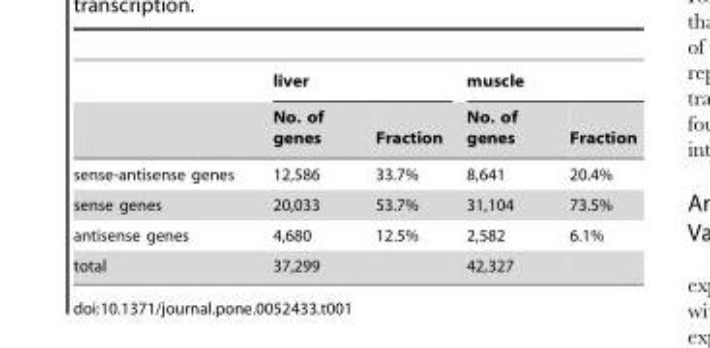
<table><thead><tr><td rowspan="2"></td><td colspan="2">liver</td><td colspan="2">muscle</td></tr><tr><td>No. of genes</td><td>Fraction</td><td>No. of genes</td><td>Fraction</td></tr></thead><tbody><tr><td>sense-antisense genes</td><td>12,586</td><td>33.7%</td><td>8,641</td><td>20.4%</td></tr><tr><td>sense genes</td><td>20,033</td><td>53.7%</td><td>31,104</td><td>73.5%</td></tr><tr><td>antisense genes</td><td>4,680</td><td>12.5%</td><td>2,582</td><td>6.1%</td></tr><tr><td>total</td><td>37,299</td><td></td><td>42,327</td><td></td></tr></tbody></table>